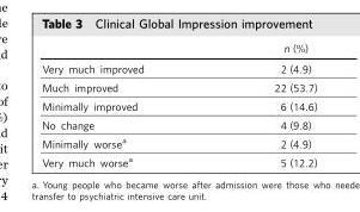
<table><thead><tr><td></td><td>n (%)</td></tr></thead><tbody><tr><td>Very much improved</td><td>2 (4.9)</td></tr><tr><td>Much improved</td><td>22 (53.7)</td></tr><tr><td>Minimally improved</td><td>6 (14.6)</td></tr><tr><td>No change</td><td>4 (9.8)</td></tr><tr><td>Minimally worse<sup>a</sup></td><td>2 (4.9)</td></tr><tr><td>Very much worse<sup>a</sup></td><td>5 (12.2)</td></tr></tbody></table>